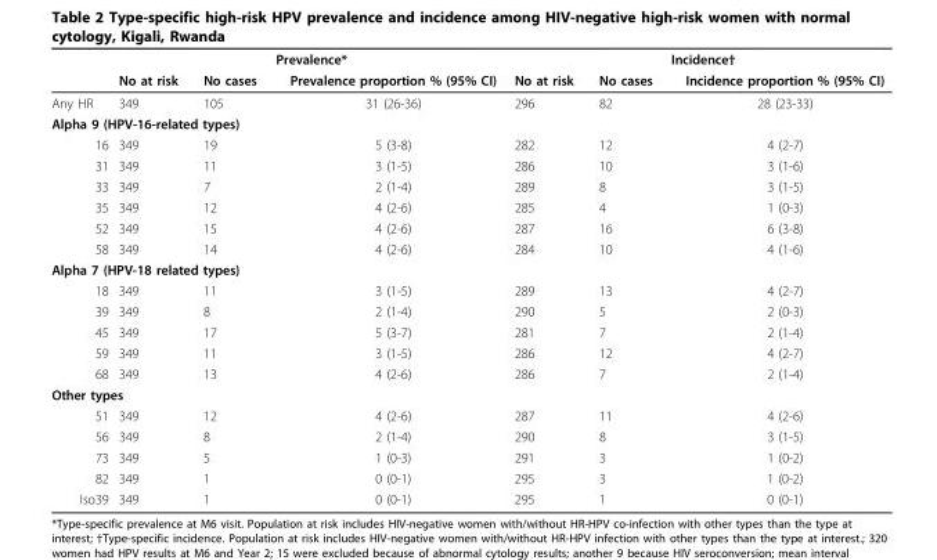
<table><thead><tr><td rowspan="2"></td><td colspan="3">Prevalence*</td><td colspan="3">Incidence†</td></tr><tr><td>No at risk</td><td>No cases</td><td>Prevalence proportion % (95% CI)</td><td>No at risk</td><td>No cases</td><td>Incidence proportion % (95% CI)</td></tr></thead><tbody><tr><td>Any HR</td><td>349</td><td>105</td><td>31 (26-36)</td><td>296</td><td>82</td><td>28 (23-33)</td></tr><tr><td colspan="7">Alpha 9 (HPV-16-related types)</td></tr><tr><td>16</td><td>349</td><td>19</td><td>5 (3-8)</td><td>282</td><td>12</td><td>4 (2-7)</td></tr><tr><td>31</td><td>349</td><td>11</td><td>3 (1-5)</td><td>286</td><td>10</td><td>3 (1-6)</td></tr><tr><td>33</td><td>349</td><td>7</td><td>2 (1-4)</td><td>289</td><td>8</td><td>3 (1-5)</td></tr><tr><td>35</td><td>349</td><td>12</td><td>4 (2-6)</td><td>285</td><td>4</td><td>1 (0-3)</td></tr><tr><td>52</td><td>349</td><td>15</td><td>4 (2-6)</td><td>287</td><td>16</td><td>6 (3-8)</td></tr><tr><td>58</td><td>349</td><td>14</td><td>4 (2-6)</td><td>284</td><td>10</td><td>4 (1-6)</td></tr><tr><td colspan="7">Alpha 7 (HPV-18 related types)</td></tr><tr><td>18</td><td>349</td><td>11</td><td>3 (1-5)</td><td>289</td><td>13</td><td>4 (2-7)</td></tr><tr><td>39</td><td>349</td><td>8</td><td>2 (1-4)</td><td>290</td><td>5</td><td>2 (0-3)</td></tr><tr><td>45</td><td>349</td><td>17</td><td>5 (3-7)</td><td>281</td><td>7</td><td>2 (1-4)</td></tr><tr><td>59</td><td>349</td><td>11</td><td>3 (1-5)</td><td>286</td><td>12</td><td>4 (2-7)</td></tr><tr><td>68</td><td>349</td><td>13</td><td>4 (2-6)</td><td>286</td><td>7</td><td>2 (1-4)</td></tr><tr><td colspan="7">Other types</td></tr><tr><td>51</td><td>349</td><td>12</td><td>4 (2-6)</td><td>287</td><td>11</td><td>4 (2-6)</td></tr><tr><td>56</td><td>349</td><td>8</td><td>2 (1-4)</td><td>290</td><td>8</td><td>3 (1-5)</td></tr><tr><td>73</td><td>349</td><td>5</td><td>1 (0-3)</td><td>291</td><td>3</td><td>1 (0-2)</td></tr><tr><td>82</td><td>349</td><td>1</td><td>0 (0-1)</td><td>295</td><td>3</td><td>1 (0-2)</td></tr><tr><td>Iso39</td><td>349</td><td>1</td><td>0 (0-1)</td><td>295</td><td>1</td><td>0 (0-1)</td></tr></tbody></table>